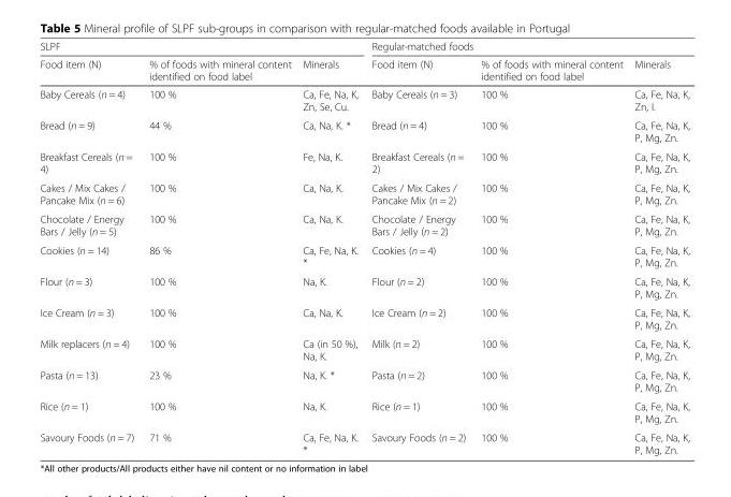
<table><thead><tr><td colspan="3">SLPF</td><td colspan="3">Regular-matched foods</td></tr><tr><td>Food item (N)</td><td>% of foods with mineral content identified on food label</td><td>Minerals</td><td>Food item (N)</td><td>% of foods with mineral content identified on food label</td><td>Minerals</td></tr></thead><tbody><tr><td>Baby Cereals (n = 4)</td><td>100 %</td><td>Ca, Fe, Na, K, Zn, Se, Cu.</td><td>Baby Cereals (n = 3)</td><td>100 %</td><td>Ca, Fe, Na, K, Zn, I.</td></tr><tr><td>Bread (n = 9)</td><td>44 %</td><td>Ca, Na, K. *</td><td>Bread (n = 4)</td><td>100 %</td><td>Ca, Fe, Na, K, P, Mg, Zn.</td></tr><tr><td>Breakfast Cereals (n = 4)</td><td>100 %</td><td>Fe, Na, K.</td><td>Breakfast Cereals (n = 2)</td><td>100 %</td><td>Ca, Fe, Na, K, P, Mg, Zn.</td></tr><tr><td>Cakes / Mix Cakes / Pancake Mix (n = 6)</td><td>100 %</td><td>Ca, Na, K.</td><td>Cakes / Mix Cakes / Pancake Mix (n = 2)</td><td>100 %</td><td>Ca, Fe, Na, K, P, Mg, Zn.</td></tr><tr><td>Chocolate / Energy Bars / Jelly (n = 5)</td><td>100 %</td><td>Ca, Na, K.</td><td>Chocolate / Energy Bars / Jelly (n = 2)</td><td>100 %</td><td>Ca, Fe, Na, K, P, Mg, Zn.</td></tr><tr><td>Cookies (n = 14)</td><td>86 %</td><td>Ca, Fe, Na, K. *</td><td>Cookies (n = 4)</td><td>100 %</td><td>Ca, Fe, Na, K, P, Mg, Zn.</td></tr><tr><td>Flour (n = 3)</td><td>100 %</td><td>Na, K.</td><td>Flour (n = 2)</td><td>100 %</td><td>Ca, Fe, Na, K, P, Mg, Zn.</td></tr><tr><td>Ice Cream (n = 3)</td><td>100 %</td><td>Ca, Na, K.</td><td>Ice Cream (n = 2)</td><td>100 %</td><td>Ca, Fe, Na, K, P, Mg, Zn.</td></tr><tr><td>Milk replacers (n = 4)</td><td>100 %</td><td>Ca (in 50 %), Na, K.</td><td>Milk (n = 2)</td><td>100 %</td><td>Ca, Fe, Na, K, P, Mg, Zn.</td></tr><tr><td>Pasta (n = 13)</td><td>23 %</td><td>Na, K. *</td><td>Pasta (n = 2)</td><td>100 %</td><td>Ca, Fe, Na, K, P, Mg, Zn.</td></tr><tr><td>Rice (n = 1)</td><td>100 %</td><td>Na, K.</td><td>Rice (n = 1)</td><td>100 %</td><td>Ca, Fe, Na, K, P, Mg, Zn.</td></tr><tr><td>Savoury Foods (n = 7)</td><td>71 %</td><td>Ca, Fe, Na, K. *</td><td>Savoury Foods (n = 2)</td><td>100 %</td><td>Ca, Fe, Na, K, P, Mg, Zn.</td></tr></tbody></table>